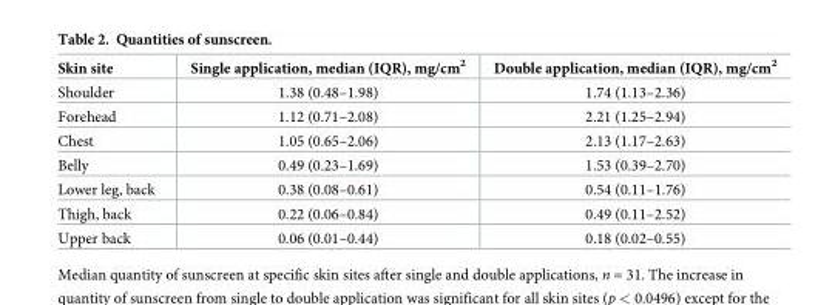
<table><thead><tr><td>Skin site</td><td>Single application, median (IQR), mg/cm<sup>2</sup></td><td>Double application, median (IQR), mg/cm<sup>2</sup></td></tr></thead><tbody><tr><td>Shoulder</td><td>1.38 (0.48–1.98)</td><td>1.74 (1.13–2.36)</td></tr><tr><td>Forehead</td><td>1.12 (0.71–2.08)</td><td>2.21 (1.25–2.94)</td></tr><tr><td>Chest</td><td>1.05 (0.65–2.06)</td><td>2.13 (1.17–2.63)</td></tr><tr><td>Belly</td><td>0.49 (0.23–1.69)</td><td>1.53 (0.39–2.70)</td></tr><tr><td>Lower leg, back</td><td>0.38 (0.08–0.61)</td><td>0.54 (0.11–1.76)</td></tr><tr><td>Thigh, back</td><td>0.22 (0.06–0.84)</td><td>0.49 (0.11–2.52)</td></tr><tr><td>Upper back</td><td>0.06 (0.01–0.44)</td><td>0.18 (0.02–0.55)</td></tr></tbody></table>